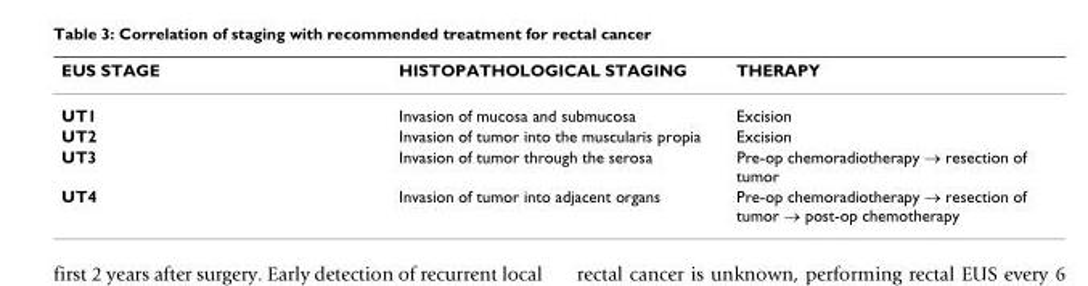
<table><thead><tr><td>EUS STAGE</td><td>HISTOPATHOLOGICAL STAGING</td><td>THERAPY</td></tr></thead><tbody><tr><td>UT1</td><td>Invasion of mucosa and submucosa</td><td>Excision</td></tr><tr><td>UT2</td><td>Invasion of tumor into the muscularis propia</td><td>Excision</td></tr><tr><td>UT3</td><td>Invasion of tumor through the serosa</td><td>Pre-op chemoradiotherapy → resection of tumor</td></tr><tr><td>UT4</td><td>Invasion of tumor into adjacent organs</td><td>Pre-op chemoradiotherapy → resection of tumor → post-op chemotherapy</td></tr></tbody></table>